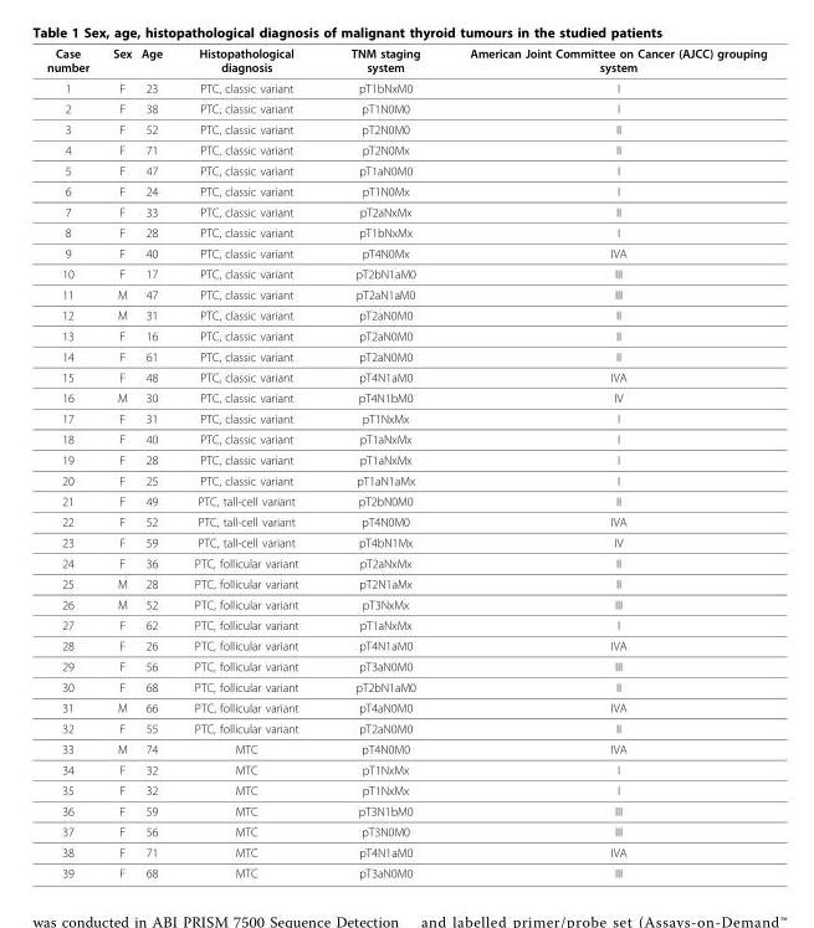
<table><thead><tr><td>Case number</td><td>Sex</td><td>Age</td><td>Histopathological diagnosis</td><td>TNM staging system</td><td>American Joint Committee on Cancer (AJCC) grouping system</td></tr></thead><tbody><tr><td>1</td><td>F</td><td>23</td><td>PTC, classic variant</td><td>pT1bNxM0</td><td>I</td></tr><tr><td>2</td><td>F</td><td>38</td><td>PTC, classic variant</td><td>pT1N0M0</td><td>I</td></tr><tr><td>3</td><td>F</td><td>52</td><td>PTC, classic variant</td><td>pT2N0M0</td><td>II</td></tr><tr><td>4</td><td>F</td><td>71</td><td>PTC, classic variant</td><td>pT2N0Mx</td><td>II</td></tr><tr><td>5</td><td>F</td><td>47</td><td>PTC, classic variant</td><td>pT1aN0M0</td><td>I</td></tr><tr><td>6</td><td>F</td><td>24</td><td>PTC, classic variant</td><td>pT1N0Mx</td><td>I</td></tr><tr><td>7</td><td>F</td><td>33</td><td>PTC, classic variant</td><td>pT2aNxMx</td><td>II</td></tr><tr><td>8</td><td>F</td><td>28</td><td>PTC, classic variant</td><td>pT1bNxMx</td><td>I</td></tr><tr><td>9</td><td>F</td><td>40</td><td>PTC, classic variant</td><td>pT4N0Mx</td><td>IVA</td></tr><tr><td>10</td><td>F</td><td>17</td><td>PTC, classic variant</td><td>pT2bN1aM0</td><td>III</td></tr><tr><td>11</td><td>M</td><td>47</td><td>PTC, classic variant</td><td>pT2aN1aM0</td><td>III</td></tr><tr><td>12</td><td>M</td><td>31</td><td>PTC, classic variant</td><td>pT2aN0M0</td><td>II</td></tr><tr><td>13</td><td>F</td><td>16</td><td>PTC, classic variant</td><td>pT2aN0M0</td><td>II</td></tr><tr><td>14</td><td>F</td><td>61</td><td>PTC, classic variant</td><td>pT2aN0M0</td><td>II</td></tr><tr><td>15</td><td>F</td><td>48</td><td>PTC, classic variant</td><td>pT4N1aM0</td><td>IVA</td></tr><tr><td>16</td><td>M</td><td>30</td><td>PTC, classic variant</td><td>pT4N1bM0</td><td>IV</td></tr><tr><td>17</td><td>F</td><td>31</td><td>PTC, classic variant</td><td>pT1NxMx</td><td>I</td></tr><tr><td>18</td><td>F</td><td>40</td><td>PTC, classic variant</td><td>pT1aNxMx</td><td>I</td></tr><tr><td>19</td><td>F</td><td>28</td><td>PTC, classic variant</td><td>pT1aNxMx</td><td>I</td></tr><tr><td>20</td><td>F</td><td>25</td><td>PTC, classic variant</td><td>pT1aN1aMx</td><td>I</td></tr><tr><td>21</td><td>F</td><td>49</td><td>PTC, tall-cell variant</td><td>pT2bN0M0</td><td>II</td></tr><tr><td>22</td><td>F</td><td>52</td><td>PTC, tall-cell variant</td><td>pT4N0M0</td><td>IVA</td></tr><tr><td>23</td><td>F</td><td>59</td><td>PTC, tall-cell variant</td><td>pT4bN1Mx</td><td>IV</td></tr><tr><td>24</td><td>F</td><td>36</td><td>PTC, follicular variant</td><td>pT2aNxMx</td><td>II</td></tr><tr><td>25</td><td>M</td><td>28</td><td>PTC, follicular variant</td><td>pT2N1aMx</td><td>II</td></tr><tr><td>26</td><td>M</td><td>52</td><td>PTC, follicular variant</td><td>pT3NxMx</td><td>III</td></tr><tr><td>27</td><td>F</td><td>62</td><td>PTC, follicular variant</td><td>pT1aNxMx</td><td>I</td></tr><tr><td>28</td><td>F</td><td>26</td><td>PTC, follicular variant</td><td>pT4N1aM0</td><td>IVA</td></tr><tr><td>29</td><td>F</td><td>56</td><td>PTC, follicular variant</td><td>pT3aN0M0</td><td>III</td></tr><tr><td>30</td><td>F</td><td>68</td><td>PTC, follicular variant</td><td>pT2bN1aM0</td><td>II</td></tr><tr><td>31</td><td>M</td><td>66</td><td>PTC, follicular variant</td><td>pT4aN0M0</td><td>IVA</td></tr><tr><td>32</td><td>F</td><td>55</td><td>PTC, follicular variant</td><td>pT2aN0M0</td><td>II</td></tr><tr><td>33</td><td>M</td><td>74</td><td>MTC</td><td>pT4N0M0</td><td>IVA</td></tr><tr><td>34</td><td>F</td><td>32</td><td>MTC</td><td>pT1NxMx</td><td>I</td></tr><tr><td>35</td><td>F</td><td>32</td><td>MTC</td><td>pT1NxMx</td><td>I</td></tr><tr><td>36</td><td>F</td><td>59</td><td>MTC</td><td>pT3N1bM0</td><td>III</td></tr><tr><td>37</td><td>F</td><td>56</td><td>MTC</td><td>pT3N0M0</td><td>III</td></tr><tr><td>38</td><td>F</td><td>71</td><td>MTC</td><td>pT4N1aM0</td><td>IVA</td></tr><tr><td>39</td><td>F</td><td>68</td><td>MTC</td><td>pT3aN0M0</td><td>III</td></tr></tbody></table>